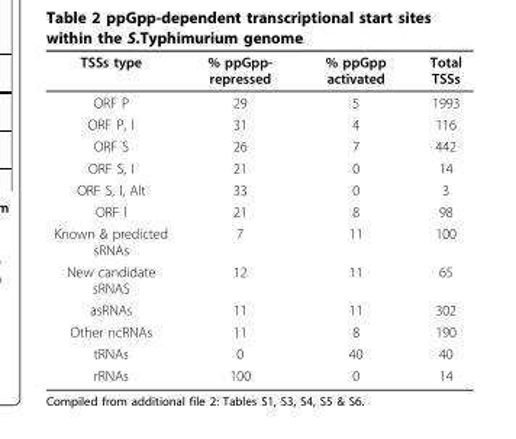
<table><thead><tr><td>TSSs type</td><td>% ppGpp- repressed</td><td>% ppGpp activated</td><td>Total TSSs</td></tr></thead><tbody><tr><td>ORF P</td><td>29</td><td>5</td><td>1993</td></tr><tr><td>ORF P, I</td><td>31</td><td>4</td><td>116</td></tr><tr><td>ORF S</td><td>26</td><td>7</td><td>442</td></tr><tr><td>ORF S, I</td><td>21</td><td>0</td><td>14</td></tr><tr><td>ORF S, I, Alt</td><td>33</td><td>0</td><td>3</td></tr><tr><td>ORF I</td><td>21</td><td>8</td><td>98</td></tr><tr><td>Known &amp; predicted sRNAs</td><td>7</td><td>11</td><td>100</td></tr><tr><td>New candidate sRNAS</td><td>12</td><td>11</td><td>65</td></tr><tr><td>asRNAs</td><td>11</td><td>11</td><td>302</td></tr><tr><td>Other ncRNAs</td><td>11</td><td>8</td><td>190</td></tr><tr><td>tRNAs</td><td>0</td><td>40</td><td>40</td></tr><tr><td>rRNAs</td><td>100</td><td>0</td><td>14</td></tr></tbody></table>